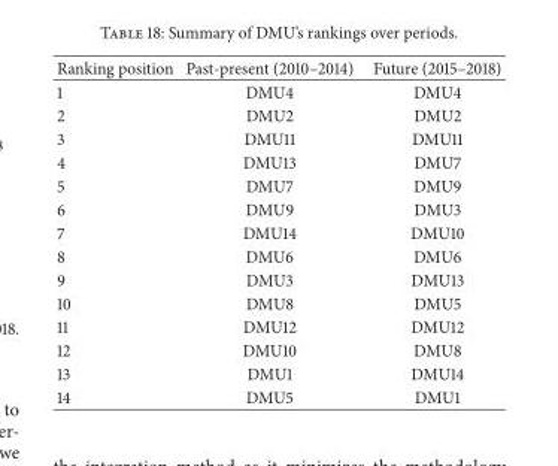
<table><thead><tr><td>Ranking position</td><td>Past-present (2010–2014)</td><td>Future (2015–2018)</td></tr></thead><tbody><tr><td>1</td><td>DMU4</td><td>DMU4</td></tr><tr><td>2</td><td>DMU2</td><td>DMU2</td></tr><tr><td>3</td><td>DMU11</td><td>DMU11</td></tr><tr><td>4</td><td>DMU13</td><td>DMU7</td></tr><tr><td>5</td><td>DMU7</td><td>DMU9</td></tr><tr><td>6</td><td>DMU9</td><td>DMU3</td></tr><tr><td>7</td><td>DMU14</td><td>DMU10</td></tr><tr><td>8</td><td>DMU6</td><td>DMU6</td></tr><tr><td>9</td><td>DMU3</td><td>DMU13</td></tr><tr><td>10</td><td>DMU8</td><td>DMU5</td></tr><tr><td>11</td><td>DMU12</td><td>DMU12</td></tr><tr><td>12</td><td>DMU10</td><td>DMU8</td></tr><tr><td>13</td><td>DMU1</td><td>DMU14</td></tr><tr><td>14</td><td>DMU5</td><td>DMU1</td></tr></tbody></table>